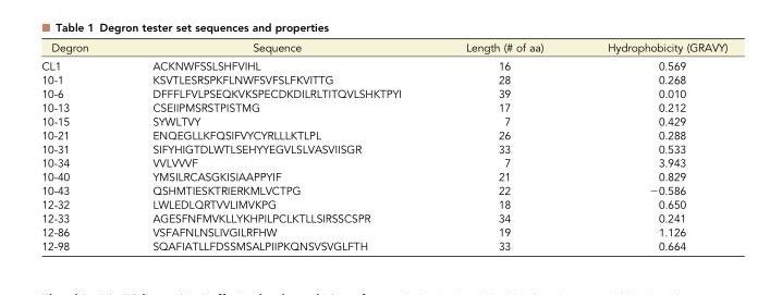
<table><thead><tr><td>Degron</td><td>Sequence</td><td>Length (# of aa)</td><td>Hydrophobicity (GRAVY)</td></tr></thead><tbody><tr><td>CL1</td><td>ACKNWFSSLSHFVIHL</td><td>16</td><td>0.569</td></tr><tr><td>10-1</td><td>KSVTLESRSPKFLNWFSVFSLFKVITTG</td><td>28</td><td>0.268</td></tr><tr><td>10-6</td><td>DFFFLFVLPSEQKVKSPECDKDILRLTITQVLSHKTPYI</td><td>39</td><td>0.010</td></tr><tr><td>10-13</td><td>CSEIIPMSRSTPISTMG</td><td>17</td><td>0.212</td></tr><tr><td>10-15</td><td>SYWLTVY</td><td>7</td><td>0.429</td></tr><tr><td>10-21</td><td>ENQEGLLKFQSIFVYCYRLLLKTLPL</td><td>26</td><td>0.288</td></tr><tr><td>10-31</td><td>SIFYHIGTDLWTLSEHYYEGVLSLVASVIISGR</td><td>33</td><td>0.533</td></tr><tr><td>10-34</td><td>VVLVVVF</td><td>7</td><td>3.943</td></tr><tr><td>10-40</td><td>YMSILRCASGKISIAAPPYIF</td><td>21</td><td>0.829</td></tr><tr><td>10-43</td><td>QSHMTIESKTRIERKMLVCTPG</td><td>22</td><td>−0.586</td></tr><tr><td>12-32</td><td>LWLEDLQRTVVLIMVKPG</td><td>18</td><td>0.650</td></tr><tr><td>12-33</td><td>AGESFNFMVKLLYKHPILPCLKTLLSIRSSCSPR</td><td>34</td><td>0.241</td></tr><tr><td>12-86</td><td>VSFAFNLNSLIVGILRFHW</td><td>19</td><td>1.126</td></tr><tr><td>12-98</td><td>SQAFIATLLFDSSMSALPIIPKQNSVSVGLFTH</td><td>33</td><td>0.664</td></tr></tbody></table>